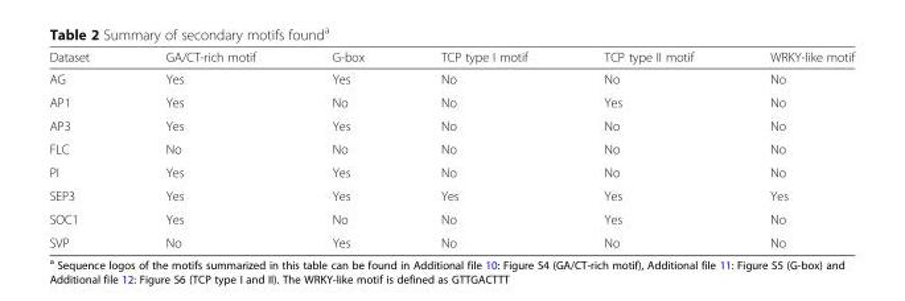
<table><thead><tr><td>Dataset</td><td>GA/CT-rich motif</td><td>G-box</td><td>TCP type I motif</td><td>TCP type II motif</td><td>WRKY-like motif</td></tr></thead><tbody><tr><td>AG</td><td>Yes</td><td>Yes</td><td>No</td><td>No</td><td>No</td></tr><tr><td>AP1</td><td>Yes</td><td>No</td><td>No</td><td>Yes</td><td>No</td></tr><tr><td>AP3</td><td>Yes</td><td>Yes</td><td>No</td><td>No</td><td>No</td></tr><tr><td>FLC</td><td>No</td><td>No</td><td>No</td><td>No</td><td>No</td></tr><tr><td>PI</td><td>Yes</td><td>Yes</td><td>No</td><td>No</td><td>No</td></tr><tr><td>SEP3</td><td>Yes</td><td>Yes</td><td>Yes</td><td>Yes</td><td>Yes</td></tr><tr><td>SOC1</td><td>Yes</td><td>No</td><td>No</td><td>Yes</td><td>No</td></tr><tr><td>SVP</td><td>No</td><td>Yes</td><td>No</td><td>No</td><td>No</td></tr></tbody></table>